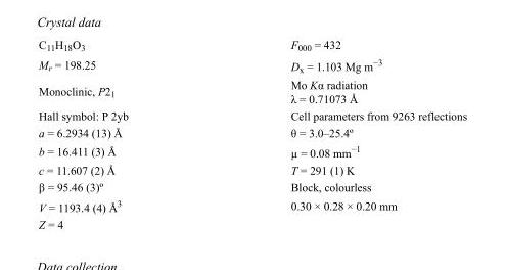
<table><tbody><tr><td>C<sub>11</sub>H<sub>18</sub>O<sub>3</sub></td><td>F<sub>000</sub> = 432</td></tr><tr><td>M<sub>r</sub> = 198.25</td><td>D<sub>x</sub> = 1.103 Mg m<sup>−3</sup></td></tr><tr><td>Monoclinic, P2<sub>1</sub></td><td>Mo Kα radiation λ = 0.71073 Å</td></tr><tr><td>Hall symbol: P 2yb</td><td>Cell parameters from 9263 reflections</td></tr><tr><td>a = 6.2934 (13) Å</td><td>θ = 3.0–25.4º</td></tr><tr><td>b = 16.411 (3) Å</td><td>µ = 0.08 mm<sup>−1</sup></td></tr><tr><td>c = 11.607 (2) Å</td><td>T = 291 (1) K</td></tr><tr><td>β = 95.46 (3)º</td><td>Block, colourless</td></tr><tr><td>V = 1193.4 (4) Å<sup>3</sup></td><td>0.30 × 0.28 × 0.20 mm</td></tr><tr><td>Z = 4</td><td></td></tr></tbody></table>